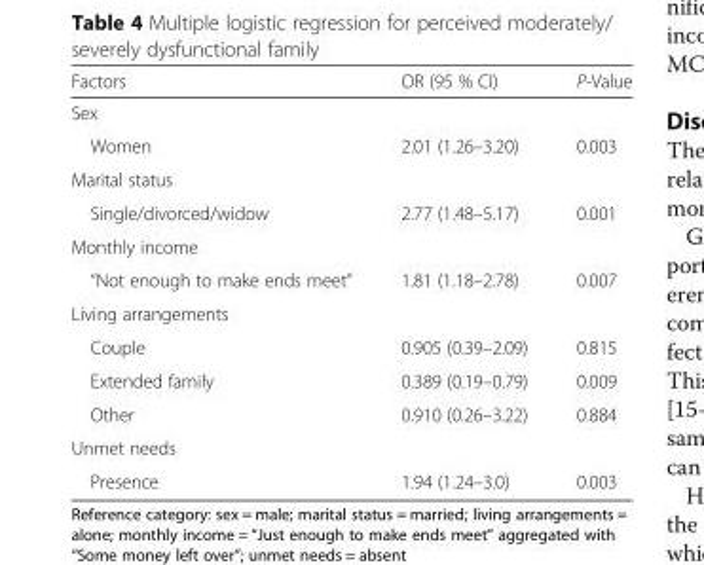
<table><thead><tr><td>Factors</td><td>OR (95 % CI)</td><td>P-Value</td></tr></thead><tbody><tr><td colspan="3">Sex</td></tr><tr><td>Women</td><td>2.01 (1.26–3.20)</td><td>0.003</td></tr><tr><td colspan="3">Marital status</td></tr><tr><td>Single/divorced/widow</td><td>2.77 (1.48–5.17)</td><td>0.001</td></tr><tr><td colspan="3">Monthly income</td></tr><tr><td>“Not enough to make ends meet”</td><td>1.81 (1.18–2.78)</td><td>0.007</td></tr><tr><td colspan="3">Living arrangements</td></tr><tr><td>Couple</td><td>0.905 (0.39–2.09)</td><td>0.815</td></tr><tr><td>Extended family</td><td>0.389 (0.19–0.79)</td><td>0.009</td></tr><tr><td>Other</td><td>0.910 (0.26–3.22)</td><td>0.884</td></tr><tr><td colspan="3">Unmet needs</td></tr><tr><td>Presence</td><td>1.94 (1.24–3.0)</td><td>0.003</td></tr></tbody></table>